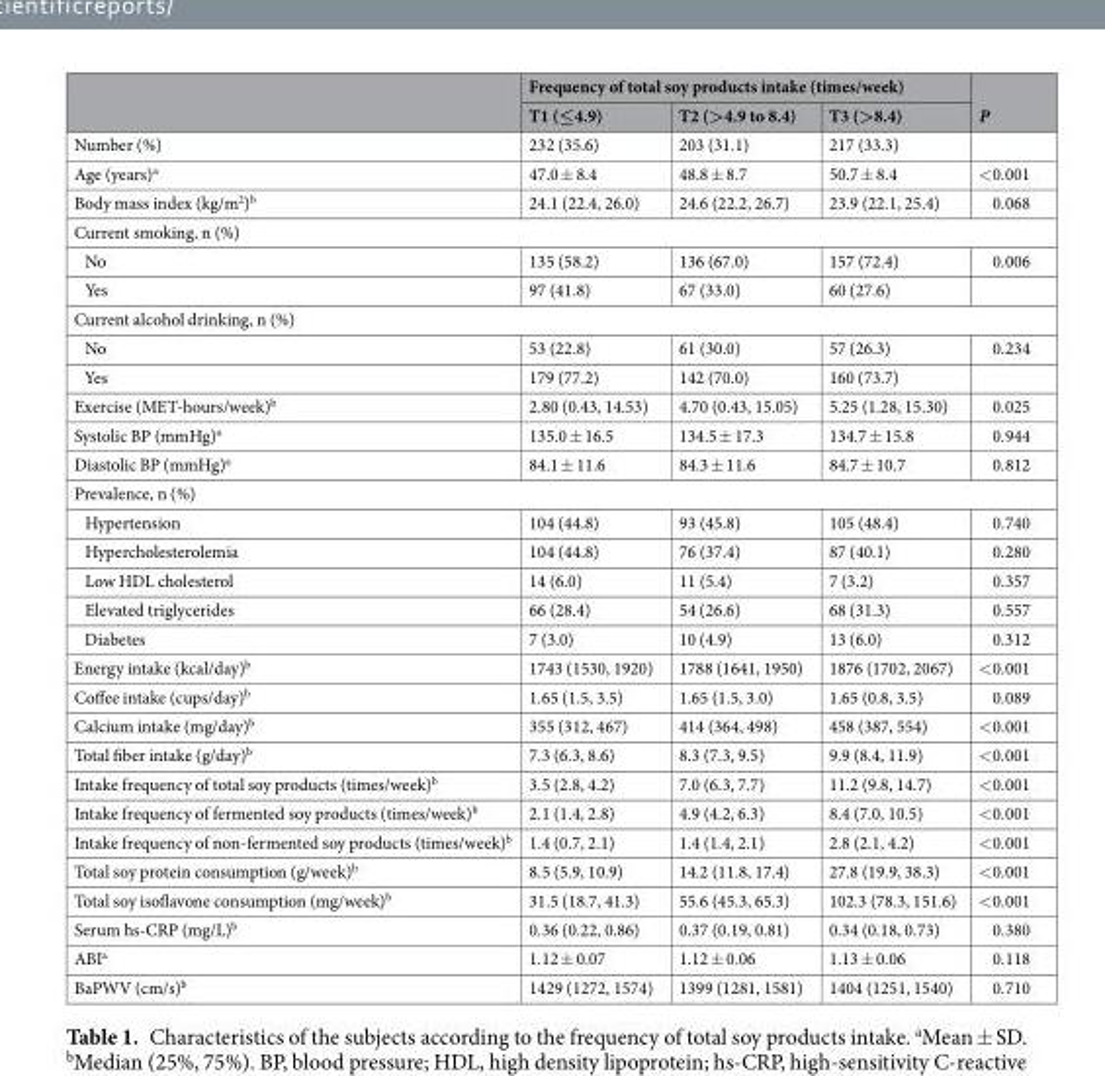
<table><thead><tr><td rowspan="2"></td><td colspan="3">Frequency of total soy products intake (times/week)</td><td rowspan="2">P</td></tr><tr><td>T1 (≤4.9)</td><td>T2 (&gt;4.9 to 8.4)</td><td>T3 (&gt;8.4)</td></tr></thead><tbody><tr><td>Number (%)</td><td>232 (35.6)</td><td>203 (31.1)</td><td>217 (33.3)</td><td></td></tr><tr><td>Age (years)<sup>a</sup></td><td>47.0 ± 8.4</td><td>48.8 ± 8.7</td><td>50.7 ± 8.4</td><td>&lt;0.001</td></tr><tr><td>Body mass index (kg/m<sup>2</sup>)<sup>b</sup></td><td>24.1 (22.4, 26.0)</td><td>24.6 (22.2, 26.7)</td><td>23.9 (22.1, 25.4)</td><td>0.068</td></tr><tr><td colspan="5">Current smoking, n (%)</td></tr><tr><td>No</td><td>135 (58.2)</td><td>136 (67.0)</td><td>157 (72.4)</td><td>0.006</td></tr><tr><td>Yes</td><td>97 (41.8)</td><td>67 (33.0)</td><td>60 (27.6)</td><td></td></tr><tr><td colspan="5">Current alcohol drinking, n (%)</td></tr><tr><td>No</td><td>53 (22.8)</td><td>61 (30.0)</td><td>57 (26.3)</td><td>0.234</td></tr><tr><td>Yes</td><td>179 (77.2)</td><td>142 (70.0)</td><td>160 (73.7)</td><td></td></tr><tr><td>Exercise (MET-hours/week)<sup>b</sup></td><td>2.80 (0.43, 14.53)</td><td>4.70 (0.43, 15.05)</td><td>5.25 (1.28, 15.30)</td><td>0.025</td></tr><tr><td>Systolic BP (mmHg)<sup>a</sup></td><td>135.0 ± 16.5</td><td>134.5 ± 17.3</td><td>134.7 ± 15.8</td><td>0.944</td></tr><tr><td>Diastolic BP (mmHg)<sup>a</sup></td><td>84.1 ± 11.6</td><td>84.3 ± 11.6</td><td>84.7 ± 10.7</td><td>0.812</td></tr><tr><td colspan="5">Prevalence, n (%)</td></tr><tr><td>Hypertension</td><td>104 (44.8)</td><td>93 (45.8)</td><td>105 (48.4)</td><td>0.740</td></tr><tr><td>Hypercholesterolemia</td><td>104 (44.8)</td><td>76 (37.4)</td><td>87 (40.1)</td><td>0.280</td></tr><tr><td>Low HDL cholesterol</td><td>14 (6.0)</td><td>11 (5.4)</td><td>7 (3.2)</td><td>0.357</td></tr><tr><td>Elevated triglycerides</td><td>66 (28.4)</td><td>54 (26.6)</td><td>68 (31.3)</td><td>0.557</td></tr><tr><td>Diabetes</td><td>7 (3.0)</td><td>10 (4.9)</td><td>13 (6.0)</td><td>0.312</td></tr><tr><td>Energy intake (kcal/day)<sup>b</sup></td><td>1743 (1530, 1920)</td><td>1788 (1641, 1950)</td><td>1876 (1702, 2067)</td><td>&lt;0.001</td></tr><tr><td>Coffee intake (cups/day)<sup>b</sup></td><td>1.65 (1.5, 3.5)</td><td>1.65 (1.5, 3.0)</td><td>1.65 (0.8, 3.5)</td><td>0.089</td></tr><tr><td>Calcium intake (mg/day)<sup>b</sup></td><td>355 (312, 467)</td><td>414 (364, 498)</td><td>458 (387, 554)</td><td>&lt;0.001</td></tr><tr><td>Total fiber intake (g/day)<sup>b</sup></td><td>7.3 (6.3, 8.6)</td><td>8.3 (7.3, 9.5)</td><td>9.9 (8.4, 11.9)</td><td>&lt;0.001</td></tr><tr><td>Intake frequency of total soy products (times/week)<sup>b</sup></td><td>3.5 (2.8, 4.2)</td><td>7.0 (6.3, 7.7)</td><td>11.2 (9.8, 14.7)</td><td>&lt;0.001</td></tr><tr><td>Intake frequency of fermented soy products (times/week)<sup>b</sup></td><td>2.1 (1.4, 2.8)</td><td>4.9 (4.2, 6.3)</td><td>8.4 (7.0, 10.5)</td><td>&lt;0.001</td></tr><tr><td>Intake frequency of non-fermented soy products (times/week)<sup>b</sup></td><td>1.4 (0.7, 2.1)</td><td>1.4 (1.4, 2.1)</td><td>2.8 (2.1, 4.2)</td><td>&lt;0.001</td></tr><tr><td>Total soy protein consumption (g/week)<sup>b</sup></td><td>8.5 (5.9, 10.9)</td><td>14.2 (11.8, 17.4)</td><td>27.8 (19.9, 38.3)</td><td>&lt;0.001</td></tr><tr><td>Total soy isoflavone consumption (mg/week)<sup>b</sup></td><td>31.5 (18.7, 41.3)</td><td>55.6 (45.3, 65.3)</td><td>102.3 (78.3, 151.6)</td><td>&lt;0.001</td></tr><tr><td>Serum hs-CRP (mg/L)<sup>b</sup></td><td>0.36 (0.22, 0.86)</td><td>0.37 (0.19, 0.81)</td><td>0.34 (0.18, 0.73)</td><td>0.380</td></tr><tr><td>ABI<sup>a</sup></td><td>1.12 ± 0.07</td><td>1.12 ± 0.06</td><td>1.13 ± 0.06</td><td>0.118</td></tr><tr><td>BaPWV (cm/s)<sup>b</sup></td><td>1429 (1272, 1574)</td><td>1399 (1281, 1581)</td><td>1404 (1251, 1540)</td><td>0.710</td></tr></tbody></table>